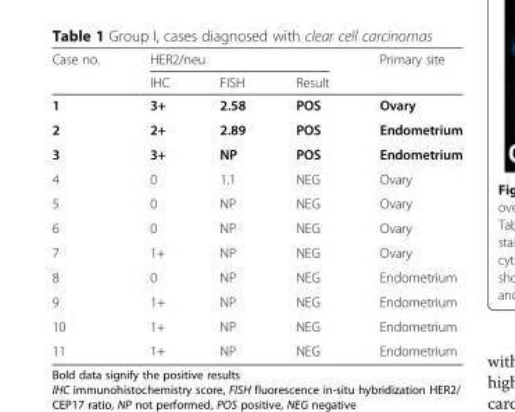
<table><thead><tr><td rowspan="2">Case no.</td><td colspan="3">HER2/neu</td><td rowspan="2">Primary site</td></tr><tr><td>IHC</td><td>FISH</td><td>Result</td></tr></thead><tbody><tr><td>1</td><td>3+</td><td>2.58</td><td>POS</td><td>Ovary</td></tr><tr><td>2</td><td>2+</td><td>2.89</td><td>POS</td><td>Endometrium</td></tr><tr><td>3</td><td>3+</td><td>NP</td><td>POS</td><td>Endometrium</td></tr><tr><td>4</td><td>0</td><td>1.1</td><td>NEG</td><td>Ovary</td></tr><tr><td>5</td><td>0</td><td>NP</td><td>NEG</td><td>Ovary</td></tr><tr><td>6</td><td>0</td><td>NP</td><td>NEG</td><td>Ovary</td></tr><tr><td>7</td><td>1+</td><td>NP</td><td>NEG</td><td>Ovary</td></tr><tr><td>8</td><td>0</td><td>NP</td><td>NEG</td><td>Endometrium</td></tr><tr><td>9</td><td>1+</td><td>NP</td><td>NEG</td><td>Endometrium</td></tr><tr><td>10</td><td>1+</td><td>NP</td><td>NEG</td><td>Endometrium</td></tr><tr><td>11</td><td>1+</td><td>NP</td><td>NEG</td><td>Endometrium</td></tr></tbody></table>